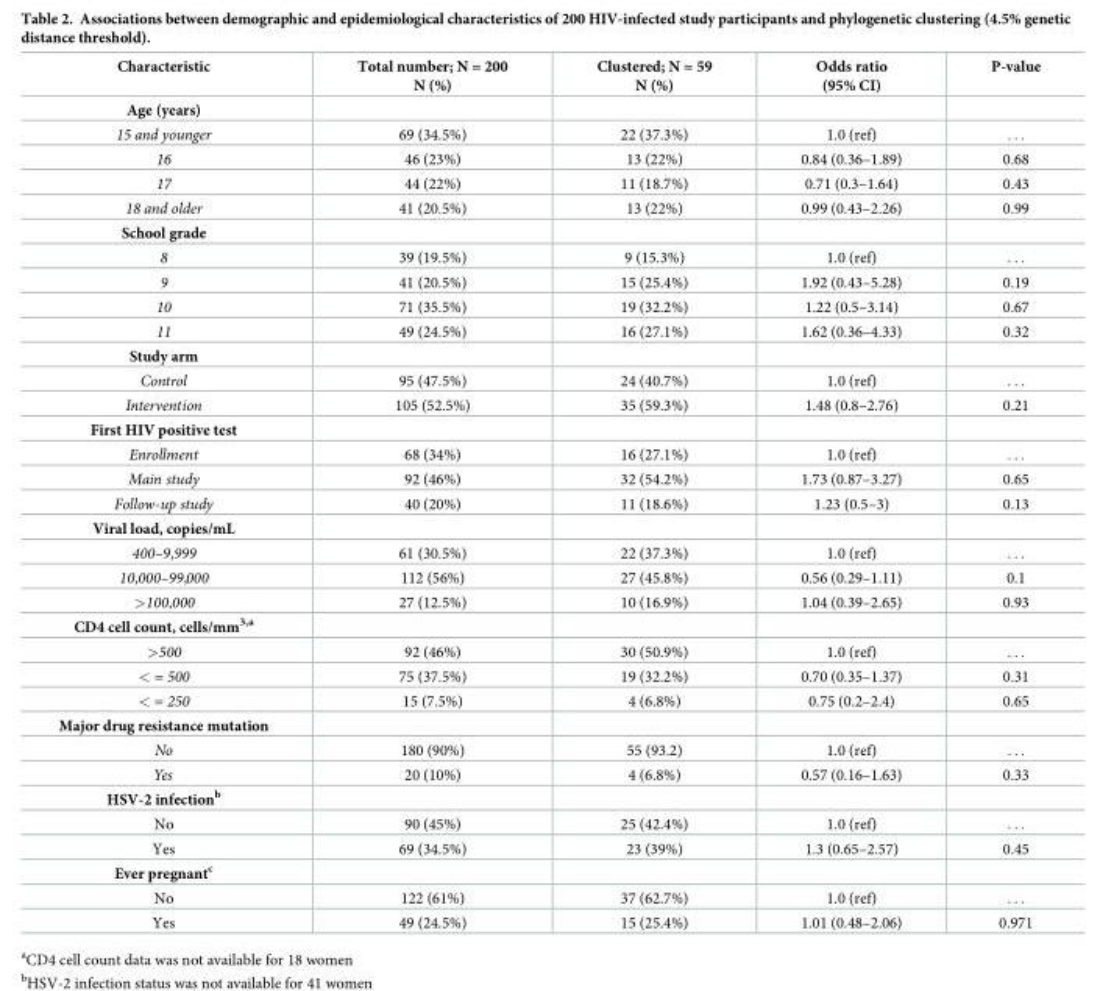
<table><thead><tr><td>Characteristic</td><td>Total number; N = 200 N (%)</td><td>Clustered; N = 59 N (%)</td><td>Odds ratio (95% CI)</td><td>P-value</td></tr></thead><tbody><tr><td colspan="5">Age (years)</td></tr><tr><td>15 and younger</td><td>69 (34.5%)</td><td>22 (37.3%)</td><td>1.0 (ref)</td><td>. . .</td></tr><tr><td>16</td><td>46 (23%)</td><td>13 (22%)</td><td>0.84 (0.36–1.89)</td><td>0.68</td></tr><tr><td>17</td><td>44 (22%)</td><td>11 (18.7%)</td><td>0.71 (0.3–1.64)</td><td>0.43</td></tr><tr><td>18 and older</td><td>41 (20.5%)</td><td>13 (22%)</td><td>0.99 (0.43–2.26)</td><td>0.99</td></tr><tr><td colspan="5">School grade</td></tr><tr><td>8</td><td>39 (19.5%)</td><td>9 (15.3%)</td><td>1.0 (ref)</td><td>. . .</td></tr><tr><td>9</td><td>41 (20.5%)</td><td>15 (25.4%)</td><td>1.92 (0.43–5.28)</td><td>0.19</td></tr><tr><td>10</td><td>71 (35.5%)</td><td>19 (32.2%)</td><td>1.22 (0.5–3.14)</td><td>0.67</td></tr><tr><td>11</td><td>49 (24.5%)</td><td>16 (27.1%)</td><td>1.62 (0.36–4.33)</td><td>0.32</td></tr><tr><td colspan="5">Study arm</td></tr><tr><td>Control</td><td>95 (47.5%)</td><td>24 (40.7%)</td><td>1.0 (ref)</td><td>. . .</td></tr><tr><td>Intervention</td><td>105 (52.5%)</td><td>35 (59.3%)</td><td>1.48 (0.8–2.76)</td><td>0.21</td></tr><tr><td colspan="5">First HIV positive test</td></tr><tr><td>Enrollment</td><td>68 (34%)</td><td>16 (27.1%)</td><td>1.0 (ref)</td><td>. . .</td></tr><tr><td>Main study</td><td>92 (46%)</td><td>32 (54.2%)</td><td>1.73 (0.87–3.27)</td><td>0.65</td></tr><tr><td>Follow-up study</td><td>40 (20%)</td><td>11 (18.6%)</td><td>1.23 (0.5–3)</td><td>0.13</td></tr><tr><td colspan="5">Viral load, copies/mL</td></tr><tr><td>400–9,999</td><td>61 (30.5%)</td><td>22 (37.3%)</td><td>1.0 (ref)</td><td>. . .</td></tr><tr><td>10,000–99,000</td><td>112 (56%)</td><td>27 (45.8%)</td><td>0.56 (0.29–1.11)</td><td>0.1</td></tr><tr><td>&gt;100,000</td><td>27 (12.5%)</td><td>10 (16.9%)</td><td>1.04 (0.39–2.65)</td><td>0.93</td></tr><tr><td colspan="5">CD4 cell count, cells/mm<sup>3,a</sup></td></tr><tr><td>&gt;500</td><td>92 (46%)</td><td>30 (50.9%)</td><td>1.0 (ref)</td><td>. . .</td></tr><tr><td>&lt; = 500</td><td>75 (37.5%)</td><td>19 (32.2%)</td><td>0.70 (0.35–1.37)</td><td>0.31</td></tr><tr><td>&lt; = 250</td><td>15 (7.5%)</td><td>4 (6.8%)</td><td>0.75 (0.2–2.4)</td><td>0.65</td></tr><tr><td colspan="5">Major drug resistance mutation</td></tr><tr><td>No</td><td>180 (90%)</td><td>55 (93.2)</td><td>1.0 (ref)</td><td>. . .</td></tr><tr><td>Yes</td><td>20 (10%)</td><td>4 (6.8%)</td><td>0.57 (0.16–1.63)</td><td>0.33</td></tr><tr><td colspan="5">HSV-2 infection<sup>b</sup></td></tr><tr><td>No</td><td>90 (45%)</td><td>25 (42.4%)</td><td>1.0 (ref)</td><td>. . .</td></tr><tr><td>Yes</td><td>69 (34.5%)</td><td>23 (39%)</td><td>1.3 (0.65–2.57)</td><td>0.45</td></tr><tr><td colspan="5">Ever pregnant<sup>c</sup></td></tr><tr><td>No</td><td>122 (61%)</td><td>37 (62.7%)</td><td>1.0 (ref)</td><td>. . .</td></tr><tr><td>Yes</td><td>49 (24.5%)</td><td>15 (25.4%)</td><td>1.01 (0.48–2.06)</td><td>0.971</td></tr></tbody></table>